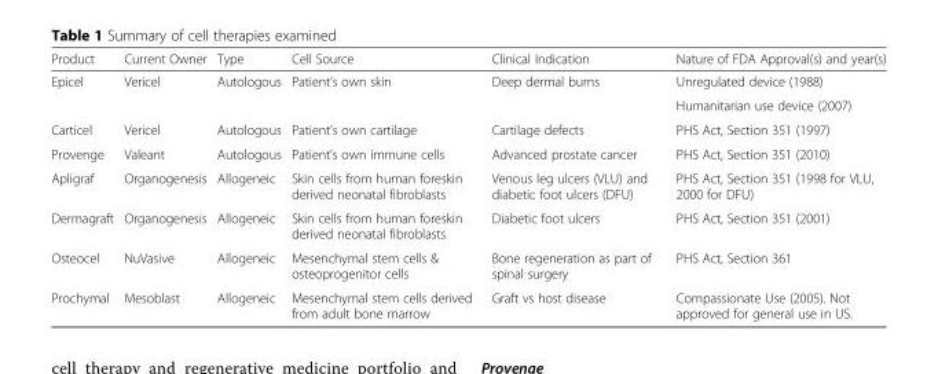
<table><thead><tr><td>Product</td><td>Current Owner</td><td>Type</td><td>Cell Source</td><td>Clinical Indication</td><td>Nature of FDA Approval(s) and year(s)</td></tr></thead><tbody><tr><td rowspan="2">Epicel</td><td rowspan="2">Vericel</td><td rowspan="2">Autologous</td><td rowspan="2">Patient’s own skin</td><td rowspan="2">Deep dermal burns</td><td>Unregulated device (1988)</td></tr><tr><td>Humanitarian use device (2007)</td></tr><tr><td>Carticel</td><td>Vericel</td><td>Autologous</td><td>Patient’s own cartilage</td><td>Cartilage defects</td><td>PHS Act, Section 351 (1997)</td></tr><tr><td>Provenge</td><td>Valeant</td><td>Autologous</td><td>Patient’s own immune cells</td><td>Advanced prostate cancer</td><td>PHS Act, Section 351 (2010)</td></tr><tr><td>Apligraf</td><td>Organogenesis</td><td>Allogeneic</td><td>Skin cells from human foreskin derived neonatal fibroblasts</td><td>Venous leg ulcers (VLU) and diabetic foot ulcers (DFU)</td><td>PHS Act, Section 351 (1998 for VLU, 2000 for DFU)</td></tr><tr><td>Dermagraft</td><td>Organogenesis</td><td>Allogeneic</td><td>Skin cells from human foreskin derived neonatal fibroblasts</td><td>Diabetic foot ulcers</td><td>PHS Act, Section 351 (2001)</td></tr><tr><td>Osteocel</td><td>NuVasive</td><td>Allogeneic</td><td>Mesenchymal stem cells &amp; osteoprogenitor cells</td><td>Bone regeneration as part of spinal surgery</td><td>PHS Act, Section 361</td></tr><tr><td>Prochymal</td><td>Mesoblast</td><td>Allogeneic</td><td>Mesenchymal stem cells derived from adult bone marrow</td><td>Graft vs host disease</td><td>Compassionate Use (2005). Not approved for general use in US.</td></tr></tbody></table>